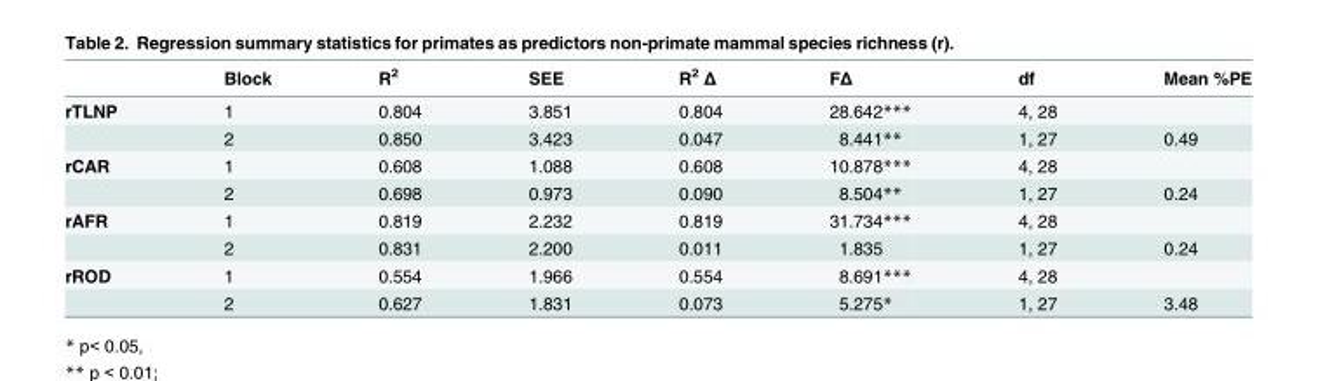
<table><thead><tr><td></td><td>Block</td><td>R<sup>2</sup></td><td>SEE</td><td>R<sup>2</sup> Δ</td><td>FΔ</td><td>df</td><td>Mean %PE</td></tr></thead><tbody><tr><td rowspan="2">rTLNP</td><td>1</td><td>0.804</td><td>3.851</td><td>0.804</td><td>28.642***</td><td>4, 28</td><td></td></tr><tr><td>2</td><td>0.850</td><td>3.423</td><td>0.047</td><td>8.441**</td><td>1, 27</td><td>0.49</td></tr><tr><td rowspan="2">rCAR</td><td>1</td><td>0.608</td><td>1.088</td><td>0.608</td><td>10.878***</td><td>4, 28</td><td></td></tr><tr><td>2</td><td>0.698</td><td>0.973</td><td>0.090</td><td>8.504**</td><td>1, 27</td><td>0.24</td></tr><tr><td rowspan="2">rAFR</td><td>1</td><td>0.819</td><td>2.232</td><td>0.819</td><td>31.734***</td><td>4, 28</td><td></td></tr><tr><td>2</td><td>0.831</td><td>2.200</td><td>0.011</td><td>1.835</td><td>1, 27</td><td>0.24</td></tr><tr><td rowspan="2">rROD</td><td>1</td><td>0.554</td><td>1.966</td><td>0.554</td><td>8.691***</td><td>4, 28</td><td></td></tr><tr><td>2</td><td>0.627</td><td>1.831</td><td>0.073</td><td>5.275*</td><td>1, 27</td><td>3.48</td></tr></tbody></table>